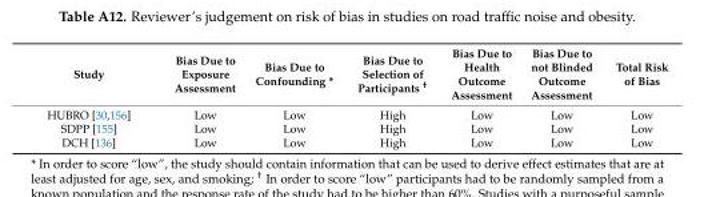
<table><thead><tr><td>Study</td><td>Bias Due to Exposure Assessment</td><td>Bias Due to Confounding *</td><td>Bias Due to Selection of Participants <sup>†</sup></td><td>Bias Due to Health Outcome Assessment</td><td>Bias Due to not Blinded Outcome Assessment</td><td>Total Risk of Bias</td></tr></thead><tbody><tr><td>HUBRO [30,156]</td><td>Low</td><td>Low</td><td>High</td><td>Low</td><td>Low</td><td>Low</td></tr><tr><td>SDPP [155]</td><td>Low</td><td>Low</td><td>High</td><td>Low</td><td>Low</td><td>Low</td></tr><tr><td>DCH [136]</td><td>Low</td><td>Low</td><td>High</td><td>Low</td><td>Low</td><td>Low</td></tr></tbody></table>